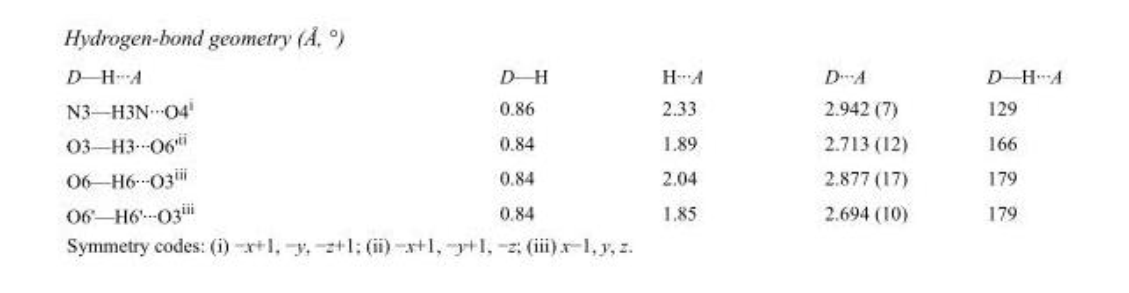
<table><tbody><tr><td>D—H···A</td><td>D—H</td><td>H···A</td><td>D···A</td><td>D—H···A</td></tr><tr><td>N3—H3N···O4<sup>i</sup></td><td>0.86</td><td>2.33</td><td>2.942 (7)</td><td>129</td></tr><tr><td>O3—H3···O6&#x27;<sup>ii</sup></td><td>0.84</td><td>1.89</td><td>2.713 (12)</td><td>166</td></tr><tr><td>O6—H6···O3<sup>iii</sup></td><td>0.84</td><td>2.04</td><td>2.877 (17)</td><td>179</td></tr><tr><td>O6&#x27;—H6&#x27;···O3<sup>iii</sup></td><td>0.84</td><td>1.85</td><td>2.694 (10)</td><td>179</td></tr></tbody></table>